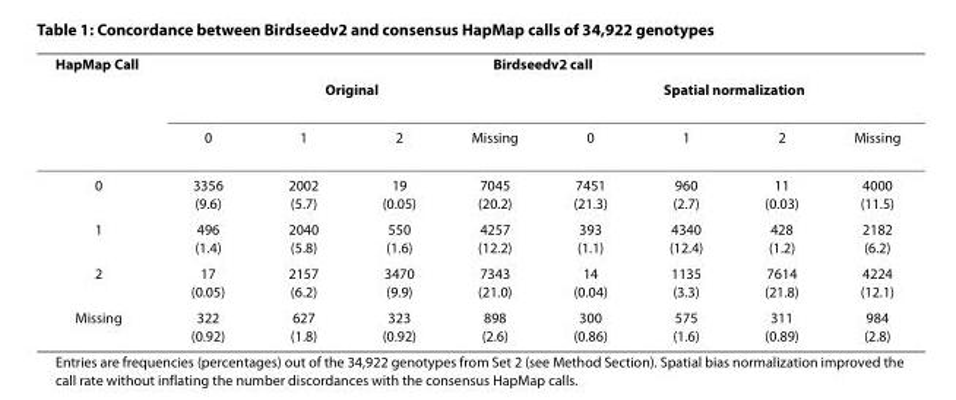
<table><thead><tr><td rowspan="3">HapMap Call</td><td colspan="8">Birdseedv2 call</td></tr><tr><td colspan="4">Original</td><td colspan="4">Spatial normalization</td></tr><tr><td>0</td><td>1</td><td>2</td><td>Missing</td><td>0</td><td>1</td><td>2</td><td>Missing</td></tr></thead><tbody><tr><td>0</td><td>3356 (9.6)</td><td>2002 (5.7)</td><td>19 (0.05)</td><td>7045 (20.2)</td><td>7451 (21.3)</td><td>960 (2.7)</td><td>11 (0.03)</td><td>4000 (11.5)</td></tr><tr><td>1</td><td>496 (1.4)</td><td>2040 (5.8)</td><td>550 (1.6)</td><td>4257 (12.2)</td><td>393 (1.1)</td><td>4340 (12.4)</td><td>428 (1.2)</td><td>2182 (6.2)</td></tr><tr><td>2</td><td>17 (0.05)</td><td>2157 (6.2)</td><td>3470 (9.9)</td><td>7343 (21.0)</td><td>14 (0.04)</td><td>1135 (3.3)</td><td>7614 (21.8)</td><td>4224 (12.1)</td></tr><tr><td>Missing</td><td>322 (0.92)</td><td>627 (1.8)</td><td>323 (0.92)</td><td>898 (2.6)</td><td>300 (0.86)</td><td>575 (1.6)</td><td>311 (0.89)</td><td>984 (2.8)</td></tr></tbody></table>